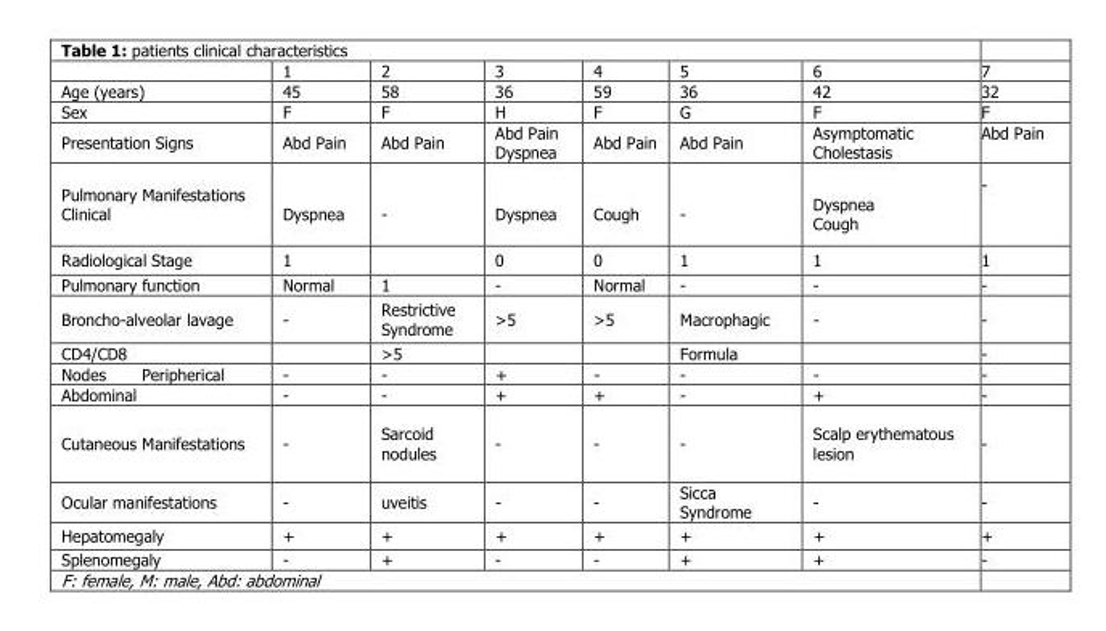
<table><thead><tr><td></td><td>1</td><td>2</td><td>3</td><td>4</td><td>5</td><td>6</td><td>7</td></tr></thead><tbody><tr><td>Age (years)</td><td>45</td><td>58</td><td>36</td><td>59</td><td>36</td><td>42</td><td>32</td></tr><tr><td>Sex</td><td>F</td><td>F</td><td>H</td><td>F</td><td>G</td><td>F</td><td>F</td></tr><tr><td>Presentation Signs</td><td>Abd Pain</td><td>Abd Pain</td><td>Abd Pain Dyspnea</td><td>Abd Pain</td><td>Abd Pain</td><td>Asymptomatic Cholestasis</td><td>Abd Pain</td></tr><tr><td>Pulmonary Manifestations Clinical</td><td>Dyspnea</td><td>-</td><td>Dyspnea</td><td>Cough</td><td>-</td><td>Dyspnea Cough</td><td>-</td></tr><tr><td>Radiological Stage</td><td>1</td><td></td><td>0</td><td>0</td><td>1</td><td>1</td><td>1</td></tr><tr><td>Pulmonary function</td><td>Normal</td><td>1</td><td>-</td><td>Normal</td><td>-</td><td>-</td><td>-</td></tr><tr><td>Broncho-alveolar lavage</td><td>-</td><td>Restrictive Syndrome</td><td>&gt;5</td><td>&gt;5</td><td>Macrophagic</td><td>-</td><td>-</td></tr><tr><td>CD4/CD8</td><td></td><td>&gt;5</td><td></td><td></td><td>Formula</td><td></td><td>-</td></tr><tr><td>Nodes Peripherical</td><td>-</td><td>-</td><td>+</td><td>-</td><td>-</td><td>-</td><td>-</td></tr><tr><td>Abdominal</td><td>-</td><td>-</td><td>+</td><td>+</td><td>-</td><td>+</td><td>-</td></tr><tr><td>Cutaneous Manifestations</td><td>-</td><td>Sarcoid nodules</td><td>-</td><td>-</td><td>-</td><td>Scalp erythematous lesion</td><td>-</td></tr><tr><td>Ocular manifestations</td><td>-</td><td>uveitis</td><td>-</td><td>-</td><td>Sicca Syndrome</td><td>-</td><td>-</td></tr><tr><td>Hepatomegaly</td><td>+</td><td>+</td><td>+</td><td>+</td><td>+</td><td>+</td><td>+</td></tr><tr><td>Splenomegaly</td><td>-</td><td>+</td><td>-</td><td>-</td><td>+</td><td>+</td><td>-</td></tr></tbody></table>